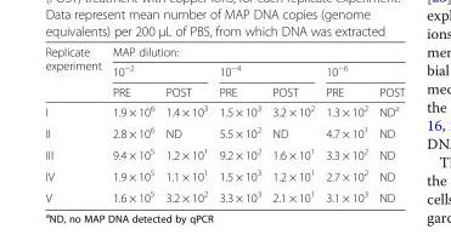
<table><thead><tr><td rowspan="3">Replicate experiment</td><td colspan="6">MAP dilution:</td></tr><tr><td colspan="2">10<sup>−2</sup></td><td colspan="2">10<sup>−4</sup></td><td colspan="2">10<sup>−6</sup></td></tr><tr><td>PRE</td><td>POST</td><td>PRE</td><td>POST</td><td>PRE</td><td>POST</td></tr></thead><tbody><tr><td>I</td><td>1.9 × 10<sup>6</sup></td><td>1.4 × 10<sup>3</sup></td><td>1.5 × 10<sup>3</sup></td><td>3.2 × 10<sup>2</sup></td><td>1.3 × 10<sup>2</sup></td><td>ND<sup>a</sup></td></tr><tr><td>II</td><td>2.8 × 10<sup>6</sup></td><td>ND</td><td>5.5 × 10<sup>2</sup></td><td>ND</td><td>4.7 × 10<sup>1</sup></td><td>ND</td></tr><tr><td>III</td><td>9.4 × 10<sup>5</sup></td><td>1.2 × 10<sup>1</sup></td><td>9.2 × 10<sup>2</sup></td><td>1.6 × 10<sup>1</sup></td><td>3.3 × 10<sup>2</sup></td><td>ND</td></tr><tr><td>IV</td><td>1.9 × 10<sup>5</sup></td><td>1.1 × 10<sup>1</sup></td><td>1.5 × 10<sup>3</sup></td><td>1.2 × 10<sup>1</sup></td><td>2.7 × 10<sup>2</sup></td><td>ND</td></tr><tr><td>V</td><td>1.6 × 10<sup>5</sup></td><td>3.2 × 10<sup>2</sup></td><td>3.3 × 10<sup>3</sup></td><td>2.1 × 10<sup>1</sup></td><td>3.1 × 10<sup>3</sup></td><td>ND</td></tr></tbody></table>